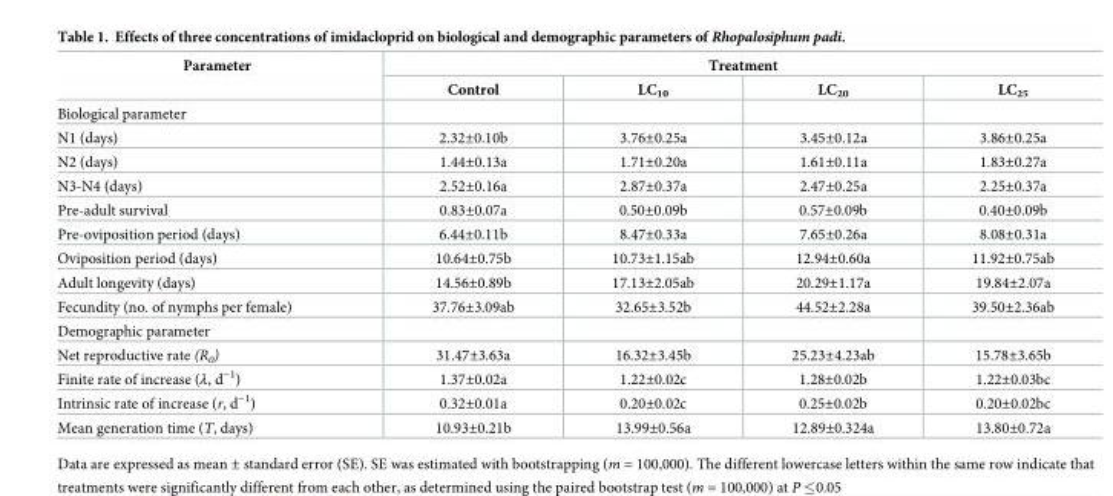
<table><thead><tr><td rowspan="2">Parameter</td><td colspan="4">Treatment</td></tr><tr><td>Control</td><td>LC<sub>10</sub></td><td>LC<sub>20</sub></td><td>LC<sub>25</sub></td></tr></thead><tbody><tr><td colspan="5">Biological parameter</td></tr><tr><td>N1 (days)</td><td>2.32±0.10b</td><td>3.76±0.25a</td><td>3.45±0.12a</td><td>3.86±0.25a</td></tr><tr><td>N2 (days)</td><td>1.44±0.13a</td><td>1.71±0.20a</td><td>1.61±0.11a</td><td>1.83±0.27a</td></tr><tr><td>N3-N4 (days)</td><td>2.52±0.16a</td><td>2.87±0.37a</td><td>2.47±0.25a</td><td>2.25±0.37a</td></tr><tr><td>Pre-adult survival</td><td>0.83±0.07a</td><td>0.50±0.09b</td><td>0.57±0.09b</td><td>0.40±0.09b</td></tr><tr><td>Pre-oviposition period (days)</td><td>6.44±0.11b</td><td>8.47±0.33a</td><td>7.65±0.26a</td><td>8.08±0.31a</td></tr><tr><td>Oviposition period (days)</td><td>10.64±0.75b</td><td>10.73±1.15ab</td><td>12.94±0.60a</td><td>11.92±0.75ab</td></tr><tr><td>Adult longevity (days)</td><td>14.56±0.89b</td><td>17.13±2.05ab</td><td>20.29±1.17a</td><td>19.84±2.07a</td></tr><tr><td>Fecundity (no. of nymphs per female)</td><td>37.76±3.09ab</td><td>32.65±3.52b</td><td>44.52±2.28a</td><td>39.50±2.36ab</td></tr><tr><td colspan="5">Demographic parameter</td></tr><tr><td>Net reproductive rate (R<sub>0</sub>)</td><td>31.47±3.63a</td><td>16.32±3.45b</td><td>25.23±4.23ab</td><td>15.78±3.65b</td></tr><tr><td>Finite rate of increase (λ, d<sup>−1</sup>)</td><td>1.37±0.02a</td><td>1.22±0.02c</td><td>1.28±0.02b</td><td>1.22±0.03bc</td></tr><tr><td>Intrinsic rate of increase (r, d<sup>−1</sup>)</td><td>0.32±0.01a</td><td>0.20±0.02c</td><td>0.25±0.02b</td><td>0.20±0.02bc</td></tr><tr><td>Mean generation time (T, days)</td><td>10.93±0.21b</td><td>13.99±0.56a</td><td>12.89±0.324a</td><td>13.80±0.72a</td></tr></tbody></table>